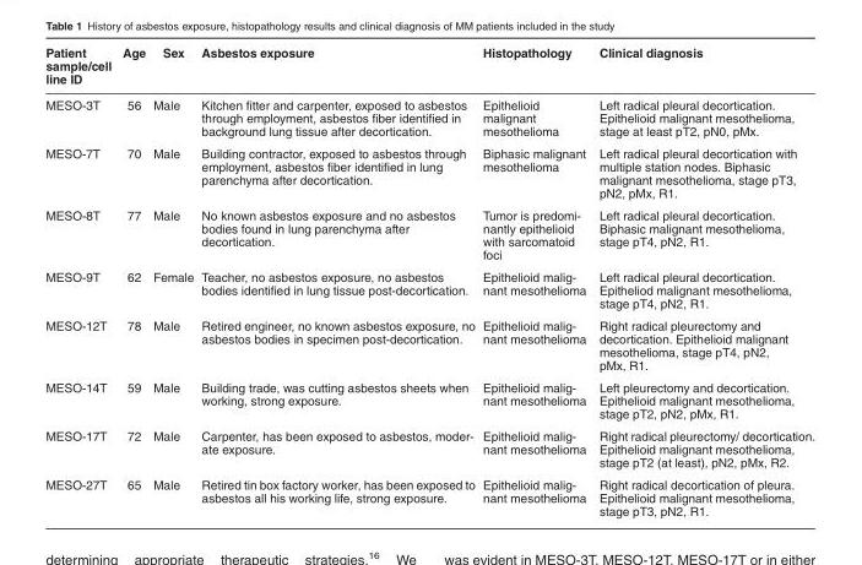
<table><thead><tr><td>Patient sample/cell line ID</td><td>Age</td><td>Sex</td><td>Asbestos exposure</td><td>Histopathology</td><td>Clinical diagnosis</td></tr></thead><tbody><tr><td>MESO-3T</td><td>56</td><td>Male</td><td>Kitchen fitter and carpenter, exposed to asbestos through employment, asbestos fiber identified in background lung tissue after decortication.</td><td>Epithelioid malignant mesothelioma</td><td>Left radical pleural decortication. Epithelioid malignant mesothelioma, stage at least pT2, pN0, pMx.</td></tr><tr><td>MESO-7T</td><td>70</td><td>Male</td><td>Building contractor, exposed to asbestos through employment, asbestos fiber identified in lung parenchyma after decortication.</td><td>Biphasic malignant mesothelioma</td><td>Left radical pleural decortication with multiple station nodes. Biphasic malignant mesothelioma, stage pT3, pN2, pMx, R1.</td></tr><tr><td>MESO-8T</td><td>77</td><td>Male</td><td>No known asbestos exposure and no asbestos bodies found in lung parenchyma after decortication.</td><td>Tumor is predomi- nantly epithelioid with sarcomatoid foci</td><td>Left radical pleural decortication. Biphasic malignant mesothelioma, stage pT4, pN2, R1.</td></tr><tr><td>MESO-9T</td><td>62</td><td>Female</td><td>Teacher, no asbestos exposure, no asbestos bodies identified in lung tissue post-decortication.</td><td>Epithelioid malig- nant mesothelioma</td><td>Left radical pleural decortication. Epitheliod malignant mesothelioma, stage pT4, pN2, R1.</td></tr><tr><td>MESO-12T</td><td>78</td><td>Male</td><td>Retired engineer, no known asbestos exposure, no asbestos bodies in specimen post-decortication.</td><td>Epithelioid malig- nant mesothelioma</td><td>Right radical pleurectomy and decortication. Epithelioid malignant mesothelioma, stage pT4, pN2, pMx, R1.</td></tr><tr><td>MESO-14T</td><td>59</td><td>Male</td><td>Building trade, was cutting asbestos sheets when working, strong exposure.</td><td>Epithelioid malig- nant mesothelioma</td><td>Left pleurectomy and decortication. Epithelioid malignant mesothelioma, stage pT2, pN2, pMx, R1.</td></tr><tr><td>MESO-17T</td><td>72</td><td>Male</td><td>Carpenter, has been exposed to asbestos, moder- ate exposure.</td><td>Epithelioid malig- nant mesothelioma</td><td>Right radical pleurectomy/ decortication. Epithelioid malignant mesothelioma, stage pT2 (at least), pN2, pMx, R2.</td></tr><tr><td>MESO-27T</td><td>65</td><td>Male</td><td>Retired tin box factory worker, has been exposed to asbestos all his working life, strong exposure.</td><td>Epithelioid malig- nant mesothelioma</td><td>Right radical decortication of pleura. Epithelioid malignant mesothelioma, stage pT3, pN2, R1.</td></tr></tbody></table>